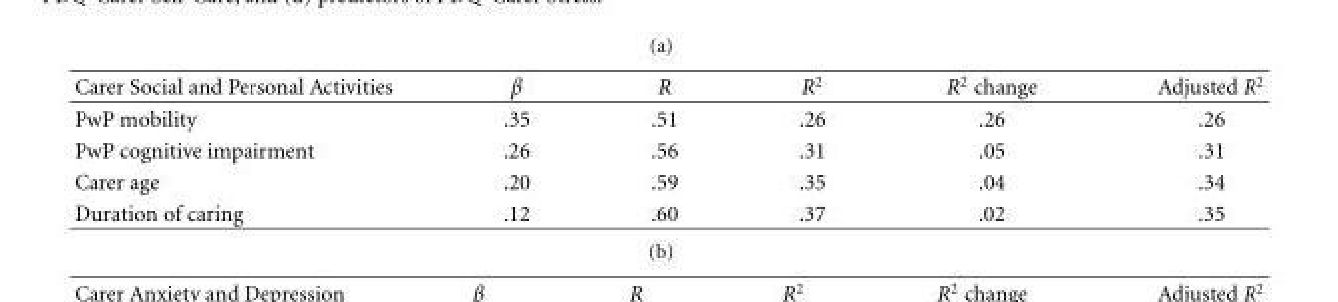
<table><thead><tr><td>Carer Social and Personal Activities</td><td>β</td><td>R</td><td>R<sup>2</sup></td><td>R<sup>2</sup> change</td><td>Adjusted R<sup>2</sup></td></tr></thead><tbody><tr><td>PwP mobility</td><td>.35</td><td>.51</td><td>.26</td><td>.26</td><td>.26</td></tr><tr><td>PwP cognitive impairment</td><td>.26</td><td>.56</td><td>.31</td><td>.05</td><td>.31</td></tr><tr><td>Carer age</td><td>.20</td><td>.59</td><td>.35</td><td>.04</td><td>.34</td></tr><tr><td>Duration of caring</td><td>.12</td><td>.60</td><td>.37</td><td>.02</td><td>.35</td></tr></tbody></table>